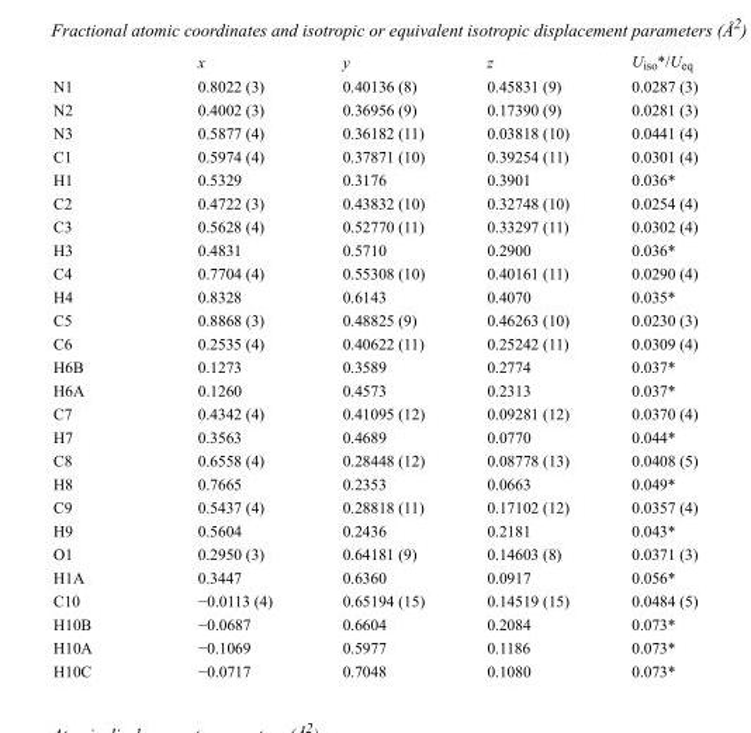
<table><thead><tr><td></td><td>x</td><td>y</td><td>z</td><td>U<sub>iso</sub>*/U<sub>eq</sub></td></tr></thead><tbody><tr><td>N1</td><td>0.8022 (3)</td><td>0.40136 (8)</td><td>0.45831 (9)</td><td>0.0287 (3)</td></tr><tr><td>N2</td><td>0.4002 (3)</td><td>0.36956 (9)</td><td>0.17390 (9)</td><td>0.0281 (3)</td></tr><tr><td>N3</td><td>0.5877 (4)</td><td>0.36182 (11)</td><td>0.03818 (10)</td><td>0.0441 (4)</td></tr><tr><td>C1</td><td>0.5974 (4)</td><td>0.37871 (10)</td><td>0.39254 (11)</td><td>0.0301 (4)</td></tr><tr><td>H1</td><td>0.5329</td><td>0.3176</td><td>0.3901</td><td>0.036*</td></tr><tr><td>C2</td><td>0.4722 (3)</td><td>0.43832 (10)</td><td>0.32748 (10)</td><td>0.0254 (4)</td></tr><tr><td>C3</td><td>0.5628 (4)</td><td>0.52770 (11)</td><td>0.33297 (11)</td><td>0.0302 (4)</td></tr><tr><td>H3</td><td>0.4831</td><td>0.5710</td><td>0.2900</td><td>0.036*</td></tr><tr><td>C4</td><td>0.7704 (4)</td><td>0.55308 (10)</td><td>0.40161 (11)</td><td>0.0290 (4)</td></tr><tr><td>H4</td><td>0.8328</td><td>0.6143</td><td>0.4070</td><td>0.035*</td></tr><tr><td>C5</td><td>0.8868 (3)</td><td>0.48825 (9)</td><td>0.46263 (10)</td><td>0.0230 (3)</td></tr><tr><td>C6</td><td>0.2535 (4)</td><td>0.40622 (11)</td><td>0.25242 (11)</td><td>0.0309 (4)</td></tr><tr><td>H6B</td><td>0.1273</td><td>0.3589</td><td>0.2774</td><td>0.037*</td></tr><tr><td>H6A</td><td>0.1260</td><td>0.4573</td><td>0.2313</td><td>0.037*</td></tr><tr><td>C7</td><td>0.4342 (4)</td><td>0.41095 (12)</td><td>0.09281 (12)</td><td>0.0370 (4)</td></tr><tr><td>H7</td><td>0.3563</td><td>0.4689</td><td>0.0770</td><td>0.044*</td></tr><tr><td>C8</td><td>0.6558 (4)</td><td>0.28448 (12)</td><td>0.08778 (13)</td><td>0.0408 (5)</td></tr><tr><td>H8</td><td>0.7665</td><td>0.2353</td><td>0.0663</td><td>0.049*</td></tr><tr><td>C9</td><td>0.5437 (4)</td><td>0.28818 (11)</td><td>0.17102 (12)</td><td>0.0357 (4)</td></tr><tr><td>H9</td><td>0.5604</td><td>0.2436</td><td>0.2181</td><td>0.043*</td></tr><tr><td>O1</td><td>0.2950 (3)</td><td>0.64181 (9)</td><td>0.14603 (8)</td><td>0.0371 (3)</td></tr><tr><td>H1A</td><td>0.3447</td><td>0.6360</td><td>0.0917</td><td>0.056*</td></tr><tr><td>C10</td><td>−0.0113 (4)</td><td>0.65194 (15)</td><td>0.14519 (15)</td><td>0.0484 (5)</td></tr><tr><td>H10B</td><td>−0.0687</td><td>0.6604</td><td>0.2084</td><td>0.073*</td></tr><tr><td>H10A</td><td>−0.1069</td><td>0.5977</td><td>0.1186</td><td>0.073*</td></tr><tr><td>H10C</td><td>−0.0717</td><td>0.7048</td><td>0.1080</td><td>0.073*</td></tr></tbody></table>